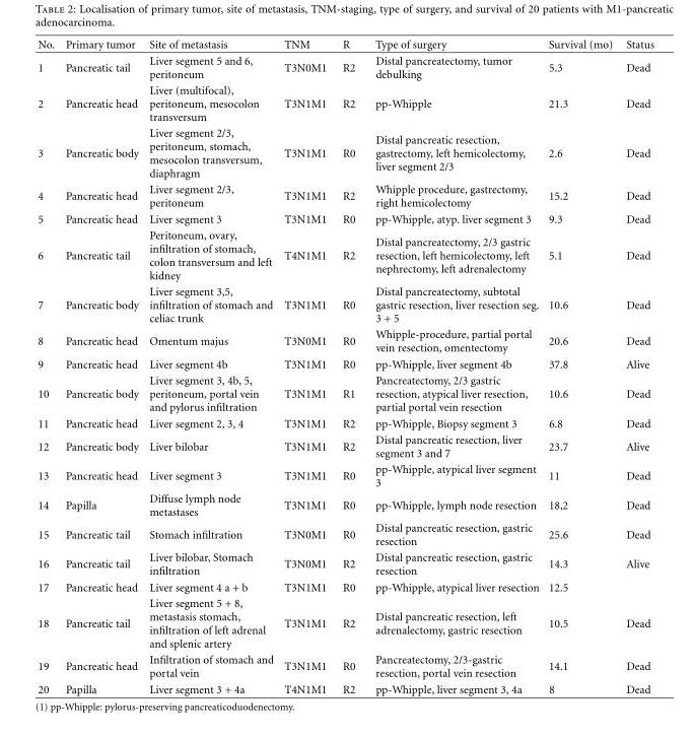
<table><thead><tr><td>No.</td><td>Primary tumor</td><td>Site of metastasis</td><td>TNM</td><td>R</td><td>Type of surgery</td><td>Survival (mo)</td><td>Status</td></tr></thead><tbody><tr><td>1</td><td>Pancreatic tail</td><td>Liver segment 5 and 6, peritoneum</td><td>T3N0M1</td><td>R2</td><td>Distal pancreatectomy, tumor debulking</td><td>5.3</td><td>Dead</td></tr><tr><td>2</td><td>Pancreatic head</td><td>Liver (multifocal), peritoneum, mesocolon transversum</td><td>T3N1M1</td><td>R2</td><td>pp-Whipple</td><td>21.3</td><td>Dead</td></tr><tr><td>3</td><td>Pancreatic body</td><td>Liver segment 2/3, peritoneum, stomach, mesocolon transversum, diaphragm</td><td>T3N1M1</td><td>R0</td><td>Distal pancreatic resection, gastrectomy, left hemicolectomy, liver segment 2/3</td><td>2.6</td><td>Dead</td></tr><tr><td>4</td><td>Pancreatic head</td><td>Liver segment 2/3, peritoneum</td><td>T3N1M1</td><td>R2</td><td>Whipple procedure, gastrectomy, right hemicolectomy</td><td>15.2</td><td>Dead</td></tr><tr><td>5</td><td>Pancreatic head</td><td>Liver segment 3</td><td>T3N1M1</td><td>R0</td><td>pp-Whipple, atyp. liver segment 3</td><td>9.3</td><td>Dead</td></tr><tr><td>6</td><td>Pancreatic tail</td><td>Peritoneum, ovary, infiltration of stomach, colon transversum and left kidney</td><td>T4N1M1</td><td>R2</td><td>Distal pancreatectomy, 2/3 gastric resection, left hemicolectomy, left nephrectomy, left adrenalectomy</td><td>5.1</td><td>Dead</td></tr><tr><td>7</td><td>Pancreatic body</td><td>Liver segment 3,5, infiltration of stomach and celiac trunk</td><td>T3N1M1</td><td>R0</td><td>Distal pancreatectomy, subtotal gastric resection, liver resection seg. 3 + 5</td><td>10.6</td><td>Dead</td></tr><tr><td>8</td><td>Pancreatic head</td><td>Omentum majus</td><td>T3N0M1</td><td>R0</td><td>Whipple-procedure, partial portal vein resection, omentectomy</td><td>20.6</td><td>Dead</td></tr><tr><td>9</td><td>Pancreatic head</td><td>Liver segment 4b</td><td>T3N1M1</td><td>R0</td><td>pp-Whipple, liver segment 4b</td><td>37.8</td><td>Alive</td></tr><tr><td>10</td><td>Pancreatic body</td><td>Liver segment 3, 4b, 5, peritoneum, portal vein and pylorus infiltration</td><td>T3N1M1</td><td>R1</td><td>Pancreatectomy, 2/3 gastric resection, atypical liver resection, partial portal vein resection</td><td>10.6</td><td>Dead</td></tr><tr><td>11</td><td>Pancreatic head</td><td>Liver segment 2, 3, 4</td><td>T3N1M1</td><td>R2</td><td>pp-Whipple, Biopsy segment 3</td><td>6.8</td><td>Dead</td></tr><tr><td>12</td><td>Pancreatic body</td><td>Liver bilobar</td><td>T3N1M1</td><td>R2</td><td>Distal pancreatic resection, liver segment 3 and 7</td><td>23.7</td><td>Alive</td></tr><tr><td>13</td><td>Pancreatic head</td><td>Liver segment 3</td><td>T3N1M1</td><td>R0</td><td>pp-Whipple, atypical liver segment 3</td><td>11</td><td>Dead</td></tr><tr><td>14</td><td>Papilla</td><td>Diffuse lymph node metastases</td><td>T3N1M1</td><td>R0</td><td>pp-Whipple, lymph node resection</td><td>18,2</td><td>Dead</td></tr><tr><td>15</td><td>Pancreatic tail</td><td>Stomach infiltration</td><td>T3N0M1</td><td>R0</td><td>Distal pancreatic resection, gastric resection</td><td>25.6</td><td>Dead</td></tr><tr><td>16</td><td>Pancreatic tail</td><td>Liver bilobar, Stomach infiltration</td><td>T3N0M1</td><td>R2</td><td>Distal pancreatic resection, gastric resection</td><td>14.3</td><td>Alive</td></tr><tr><td>17</td><td>Pancreatic head</td><td>Liver segment 4 a + b</td><td>T3N1M1</td><td>R0</td><td>pp-Whipple, atypical liver resection</td><td>12.5</td><td></td></tr><tr><td>18</td><td>Pancreatic tail</td><td>Liver segment 5 + 8, metastasis stomach, infiltration of left adrenal and splenic artery</td><td>T3N1M1</td><td>R2</td><td>Distal pancreatic resection, left adrenalectomy, gastric resection</td><td>10.5</td><td>Dead</td></tr><tr><td>19</td><td>Pancreatic head</td><td>Infiltration of stomach and portal vein</td><td>T3N1M1</td><td>R0</td><td>Pancreatectomy, 2/3-gastric resection, portal vein resection</td><td>14.1</td><td>Dead</td></tr><tr><td>20</td><td>Papilla</td><td>Liver segment 3 + 4a</td><td>T4N1M1</td><td>R2</td><td>pp-Whipple, liver segment 3, 4a</td><td>8</td><td>Dead</td></tr></tbody></table>